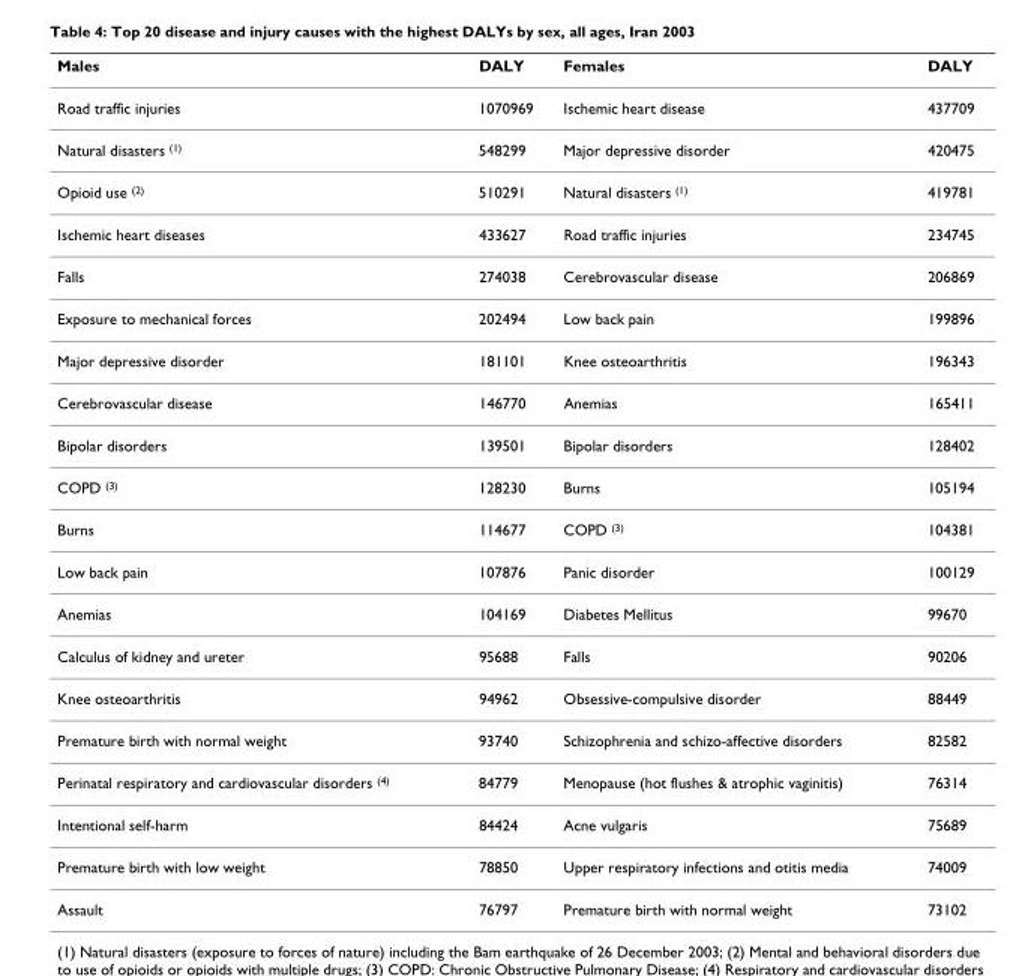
<table><thead><tr><td>Males</td><td>DALY</td><td>Females</td><td>DALY</td></tr></thead><tbody><tr><td>Road traffic injuries</td><td>1070969</td><td>Ischemic heart disease</td><td>437709</td></tr><tr><td>Natural disasters <sup>(1)</sup></td><td>548299</td><td>Major depressive disorder</td><td>420475</td></tr><tr><td>Opioid use <sup>(2)</sup></td><td>510291</td><td>Natural disasters <sup>(1)</sup></td><td>419781</td></tr><tr><td>Ischemic heart diseases</td><td>433627</td><td>Road traffic injuries</td><td>234745</td></tr><tr><td>Falls</td><td>274038</td><td>Cerebrovascular disease</td><td>206869</td></tr><tr><td>Exposure to mechanical forces</td><td>202494</td><td>Low back pain</td><td>199896</td></tr><tr><td>Major depressive disorder</td><td>181101</td><td>Knee osteoarthritis</td><td>196343</td></tr><tr><td>Cerebrovascular disease</td><td>146770</td><td>Anemias</td><td>165411</td></tr><tr><td>Bipolar disorders</td><td>139501</td><td>Bipolar disorders</td><td>128402</td></tr><tr><td>COPD <sup>(3)</sup></td><td>128230</td><td>Burns</td><td>105194</td></tr><tr><td>Burns</td><td>114677</td><td>COPD <sup>(3)</sup></td><td>104381</td></tr><tr><td>Low back pain</td><td>107876</td><td>Panic disorder</td><td>100129</td></tr><tr><td>Anemias</td><td>104169</td><td>Diabetes Mellitus</td><td>99670</td></tr><tr><td>Calculus of kidney and ureter</td><td>95688</td><td>Falls</td><td>90206</td></tr><tr><td>Knee osteoarthritis</td><td>94962</td><td>Obsessive-compulsive disorder</td><td>88449</td></tr><tr><td>Premature birth with normal weight</td><td>93740</td><td>Schizophrenia and schizo-affective disorders</td><td>82582</td></tr><tr><td>Perinatal respiratory and cardiovascular disorders <sup>(4)</sup></td><td>84779</td><td>Menopause (hot flushes &amp; atrophic vaginitis)</td><td>76314</td></tr><tr><td>Intentional self-harm</td><td>84424</td><td>Acne vulgaris</td><td>75689</td></tr><tr><td>Premature birth with low weight</td><td>78850</td><td>Upper respiratory infections and otitis media</td><td>74009</td></tr><tr><td>Assault</td><td>76797</td><td>Premature birth with normal weight</td><td>73102</td></tr></tbody></table>